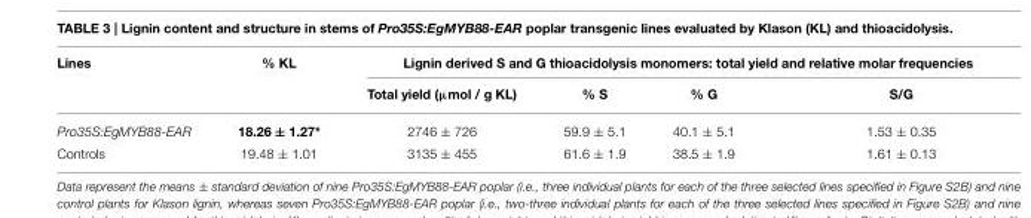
<table><thead><tr><td rowspan="2">Lines</td><td rowspan="2">% KL</td><td colspan="4">Lignin derived S and G thioacidolysis monomers: total yield and relative molar frequencies</td></tr><tr><td>Total yield (µmol / g KL)</td><td>% S</td><td>% G</td><td>S/G</td></tr></thead><tbody><tr><td>Pro35S:EgMYB88-EAR</td><td>18.26 ± 1.27*</td><td>2746 ± 726</td><td>59.9 ± 5.1</td><td>40.1 ± 5.1</td><td>1.53 ± 0.35</td></tr><tr><td>Controls</td><td>19.48 ± 1.01</td><td>3135 ± 455</td><td>61.6 ± 1.9</td><td>38.5 ± 1.9</td><td>1.61 ± 0.13</td></tr></tbody></table>